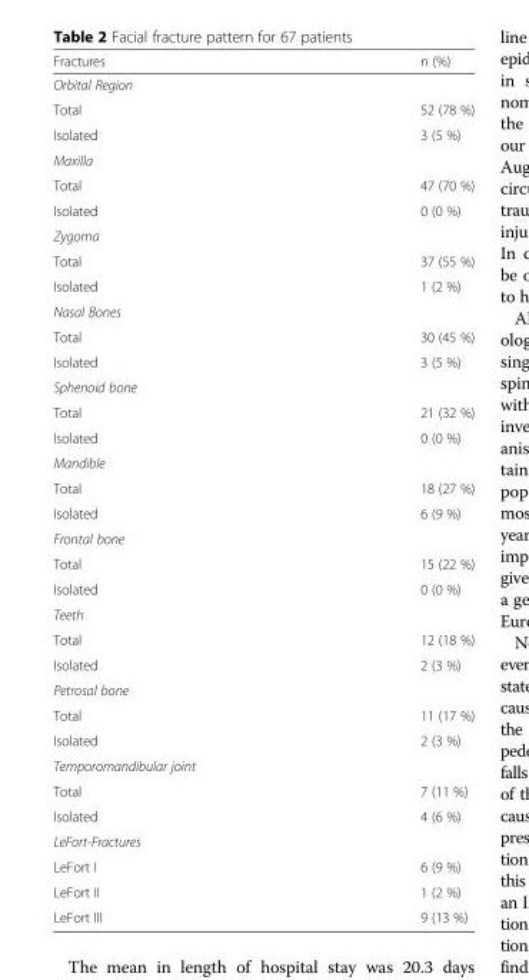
<table><thead><tr><td>Fractures</td><td>n (%)</td></tr></thead><tbody><tr><td colspan="2">Orbital Region</td></tr><tr><td>Total</td><td>52 (78 %)</td></tr><tr><td>Isolated</td><td>3 (5 %)</td></tr><tr><td colspan="2">Maxilla</td></tr><tr><td>Total</td><td>47 (70 %)</td></tr><tr><td>Isolated</td><td>0 (0 %)</td></tr><tr><td colspan="2">Zygoma</td></tr><tr><td>Total</td><td>37 (55 %)</td></tr><tr><td>Isolated</td><td>1 (2 %)</td></tr><tr><td colspan="2">Nasal Bones</td></tr><tr><td>Total</td><td>30 (45 %)</td></tr><tr><td>Isolated</td><td>3 (5 %)</td></tr><tr><td colspan="2">Sphenoid bone</td></tr><tr><td>Total</td><td>21 (32 %)</td></tr><tr><td>Isolated</td><td>0 (0 %)</td></tr><tr><td colspan="2">Mandible</td></tr><tr><td>Total</td><td>18 (27 %)</td></tr><tr><td>Isolated</td><td>6 (9 %)</td></tr><tr><td colspan="2">Frontal bone</td></tr><tr><td>Total</td><td>15 (22 %)</td></tr><tr><td>Isolated</td><td>0 (0 %)</td></tr><tr><td colspan="2">Teeth</td></tr><tr><td>Total</td><td>12 (18 %)</td></tr><tr><td>Isolated</td><td>2 (3 %)</td></tr><tr><td colspan="2">Petrosal bone</td></tr><tr><td>Total</td><td>11 (17 %)</td></tr><tr><td>Isolated</td><td>2 (3 %)</td></tr><tr><td colspan="2">Temporomandibular joint</td></tr><tr><td>Total</td><td>7 (11 %)</td></tr><tr><td>Isolated</td><td>4 (6 %)</td></tr><tr><td colspan="2">LeFort-Fractures</td></tr><tr><td>LeFort I</td><td>6 (9 %)</td></tr><tr><td>LeFort II</td><td>1 (2 %)</td></tr><tr><td>LeFort III</td><td>9 (13 %)</td></tr></tbody></table>